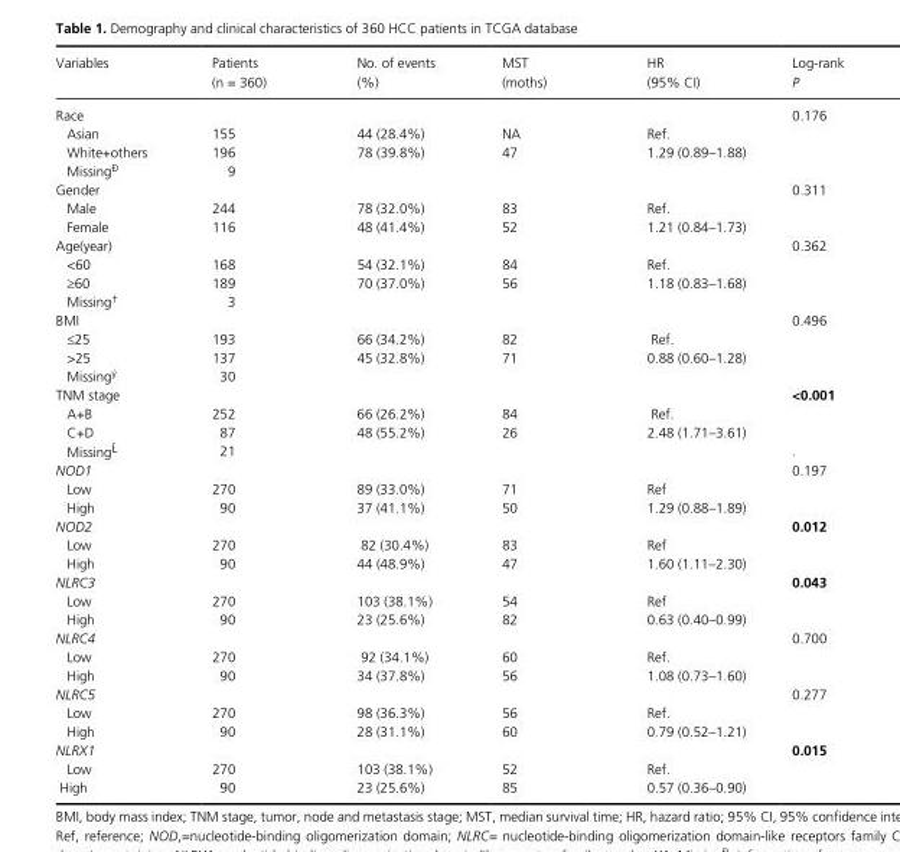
<table><thead><tr><td>Variables</td><td>Patients (n = 360)</td><td>No. of events (%)</td><td>MST (moths)</td><td>HR (95% CI)</td><td>Log- rank P</td></tr></thead><tbody><tr><td>Race</td><td></td><td></td><td></td><td></td><td>0.176</td></tr><tr><td>Asian</td><td>155</td><td>44 (28.4%)</td><td>NA</td><td>Ref.</td><td></td></tr><tr><td>White+others</td><td>196</td><td>78 (39.8%)</td><td>47</td><td>1.29 (0.89–1.88)</td><td></td></tr><tr><td>Missing<sup>Đ</sup></td><td>9</td><td></td><td></td><td></td><td></td></tr><tr><td>Gender</td><td></td><td></td><td></td><td></td><td>0.311</td></tr><tr><td>Male</td><td>244</td><td>78 (32.0%)</td><td>83</td><td>Ref.</td><td></td></tr><tr><td>Female</td><td>116</td><td>48 (41.4%)</td><td>52</td><td>1.21 (0.84–1.73)</td><td></td></tr><tr><td>Age(year)</td><td></td><td></td><td></td><td></td><td>0.362</td></tr><tr><td>&lt;60</td><td>168</td><td>54 (32.1%)</td><td>84</td><td>Ref.</td><td></td></tr><tr><td>≥60</td><td>189</td><td>70 (37.0%)</td><td>56</td><td>1.18 (0.83–1.68)</td><td></td></tr><tr><td>Missing<sup>†</sup></td><td>3</td><td></td><td></td><td></td><td></td></tr><tr><td>BMI</td><td></td><td></td><td></td><td></td><td>0.496</td></tr><tr><td>≤25</td><td>193</td><td>66 (34.2%)</td><td>82</td><td>Ref.</td><td></td></tr><tr><td>&gt;25</td><td>137</td><td>45 (32.8%)</td><td>71</td><td>0.88 (0.60–1.28)</td><td></td></tr><tr><td>Missing<sup>ý</sup></td><td>30</td><td></td><td></td><td></td><td></td></tr><tr><td>TNM stage</td><td></td><td></td><td></td><td></td><td>&lt;0.001</td></tr><tr><td>A+B</td><td>252</td><td>66 (26.2%)</td><td>84</td><td>Ref.</td><td></td></tr><tr><td>C+D</td><td>87</td><td>48 (55.2%)</td><td>26</td><td>2.48 (1.71–3.61)</td><td></td></tr><tr><td>Missing<sup>Ĺ</sup></td><td>21</td><td></td><td></td><td></td><td>.</td></tr><tr><td>NOD1</td><td></td><td></td><td></td><td></td><td>0.197</td></tr><tr><td>Low</td><td>270</td><td>89 (33.0%)</td><td>71</td><td>Ref</td><td></td></tr><tr><td>High</td><td>90</td><td>37 (41.1%)</td><td>50</td><td>1.29 (0.88–1.89)</td><td></td></tr><tr><td>NOD2</td><td></td><td></td><td></td><td></td><td>0.012</td></tr><tr><td>Low</td><td>270</td><td>82 (30.4%)</td><td>83</td><td>Ref</td><td></td></tr><tr><td>High</td><td>90</td><td>44 (48.9%)</td><td>47</td><td>1.60 (1.11–2.30)</td><td></td></tr><tr><td>NLRC3</td><td></td><td></td><td></td><td></td><td>0.043</td></tr><tr><td>Low</td><td>270</td><td>103 (38.1%)</td><td>54</td><td>Ref</td><td></td></tr><tr><td>High</td><td>90</td><td>23 (25.6%)</td><td>82</td><td>0.63 (0.40–0.99)</td><td></td></tr><tr><td>NLRC4</td><td></td><td></td><td></td><td></td><td>0.700</td></tr><tr><td>Low</td><td>270</td><td>92 (34.1%)</td><td>60</td><td>Ref.</td><td></td></tr><tr><td>High</td><td>90</td><td>34 (37.8%)</td><td>56</td><td>1.08 (0.73–1.60)</td><td></td></tr><tr><td>NLRC5</td><td></td><td></td><td></td><td></td><td>0.277</td></tr><tr><td>Low</td><td>270</td><td>98 (36.3%)</td><td>56</td><td>Ref.</td><td></td></tr><tr><td>High</td><td>90</td><td>28 (31.1%)</td><td>60</td><td>0.79 (0.52–1.21)</td><td></td></tr><tr><td>NLRX1</td><td></td><td></td><td></td><td></td><td>0.015</td></tr><tr><td>Low</td><td>270</td><td>103 (38.1%)</td><td>52</td><td>Ref.</td><td></td></tr><tr><td>High</td><td>90</td><td>23 (25.6%)</td><td>85</td><td>0.57 (0.36–0.90)</td><td></td></tr></tbody></table>